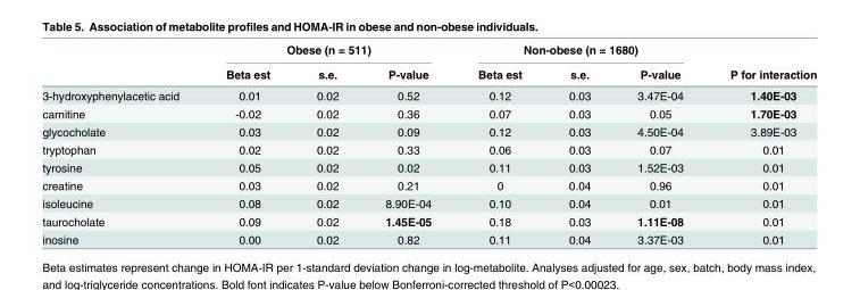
<table><thead><tr><td rowspan="2"></td><td colspan="3">Obese (n = 511)</td><td colspan="3">Non-obese (n = 1680)</td><td rowspan="2">P for interaction</td></tr><tr><td>Beta est</td><td>s.e.</td><td>P-value</td><td>Beta est</td><td>s.e.</td><td>P-value</td></tr></thead><tbody><tr><td>3-hydroxyphenylacetic acid</td><td>0.01</td><td>0.02</td><td>0.52</td><td>0.12</td><td>0.03</td><td>3.47E-04</td><td>1.40E-03</td></tr><tr><td>carnitine</td><td>-0.02</td><td>0.02</td><td>0.36</td><td>0.07</td><td>0.03</td><td>0.05</td><td>1.70E-03</td></tr><tr><td>glycocholate</td><td>0.03</td><td>0.02</td><td>0.09</td><td>0.12</td><td>0.03</td><td>4.50E-04</td><td>3.89E-03</td></tr><tr><td>tryptophan</td><td>0.02</td><td>0.02</td><td>0.33</td><td>0.06</td><td>0.03</td><td>0.07</td><td>0.01</td></tr><tr><td>tyrosine</td><td>0.05</td><td>0.02</td><td>0.02</td><td>0.11</td><td>0.03</td><td>1.52E-03</td><td>0.01</td></tr><tr><td>creatine</td><td>0.03</td><td>0.02</td><td>0.21</td><td>0</td><td>0.04</td><td>0.96</td><td>0.01</td></tr><tr><td>isoleucine</td><td>0.08</td><td>0.02</td><td>8.90E-04</td><td>0.10</td><td>0.04</td><td>0.01</td><td>0.01</td></tr><tr><td>taurocholate</td><td>0.09</td><td>0.02</td><td>1.45E-05</td><td>0.18</td><td>0.03</td><td>1.11E-08</td><td>0.01</td></tr><tr><td>inosine</td><td>0.00</td><td>0.02</td><td>0.82</td><td>0.11</td><td>0.04</td><td>3.37E-03</td><td>0.01</td></tr></tbody></table>